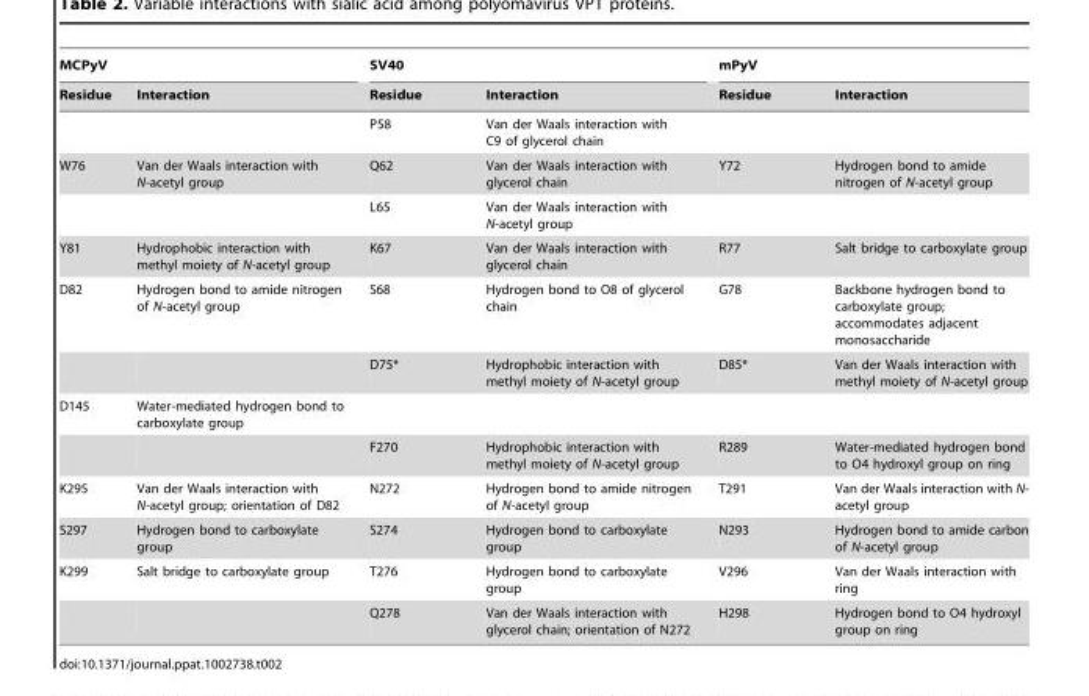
<table><thead><tr><td colspan="2">MCPyV</td><td colspan="2">SV40</td><td colspan="2">mPyV</td></tr><tr><td>Residue</td><td>Interaction</td><td>Residue</td><td>Interaction</td><td>Residue</td><td>Interaction</td></tr></thead><tbody><tr><td></td><td></td><td>P58</td><td>Van der Waals interaction with C9 of glycerol chain</td><td></td><td></td></tr><tr><td rowspan="2">W76</td><td>Van der Waals interaction with N-acetyl group</td><td>Q62</td><td>Van der Waals interaction with glycerol chain</td><td>Y72</td><td>Hydrogen bond to amide nitrogen of N-acetyl group</td></tr><tr><td></td><td>L65</td><td>Van der Waals interaction with N-acetyl group</td><td></td><td></td></tr><tr><td>Y81</td><td>Hydrophobic interaction with methyl moiety of N-acetyl group</td><td>K67</td><td>Van der Waals interaction with glycerol chain</td><td>R77</td><td>Salt bridge to carboxylate group</td></tr><tr><td rowspan="2">D82</td><td>Hydrogen bond to amide nitrogen of N-acetyl group</td><td>S68</td><td>Hydrogen bond to O8 of glycerol chain</td><td>G78</td><td>Backbone hydrogen bond to carboxylate group; accommodates adjacent monosaccharide</td></tr><tr><td></td><td>D75*</td><td>Hydrophobic interaction with methyl moiety of N-acetyl group</td><td>D85*</td><td>Van der Waals interaction with methyl moiety of N-acetyl group</td></tr><tr><td rowspan="2">D145</td><td>Water-mediated hydrogen bond to carboxylate group</td><td></td><td></td><td></td><td></td></tr><tr><td></td><td>F270</td><td>Hydrophobic interaction with methyl moiety of N-acetyl group</td><td>R289</td><td>Water-mediated hydrogen bond to O4 hydroxyl group on ring</td></tr><tr><td>K295</td><td>Van der Waals interaction with N-acetyl group; orientation of D82</td><td>N272</td><td>Hydrogen bond to amide nitrogen of N-acetyl group</td><td>T291</td><td>Van der Waals interaction with N- acetyl group</td></tr><tr><td>S297</td><td>Hydrogen bond to carboxylate group</td><td>S274</td><td>Hydrogen bond to carboxylate group</td><td>N293</td><td>Hydrogen bond to amide carbon of N-acetyl group</td></tr><tr><td rowspan="2">K299</td><td>Salt bridge to carboxylate group</td><td>T276</td><td>Hydrogen bond to carboxylate group</td><td>V296</td><td>Van der Waals interaction with ring</td></tr><tr><td></td><td>Q278</td><td>Van der Waals interaction with glycerol chain; orientation of N272</td><td>H298</td><td>Hydrogen bond to O4 hydroxyl group on ring</td></tr></tbody></table>